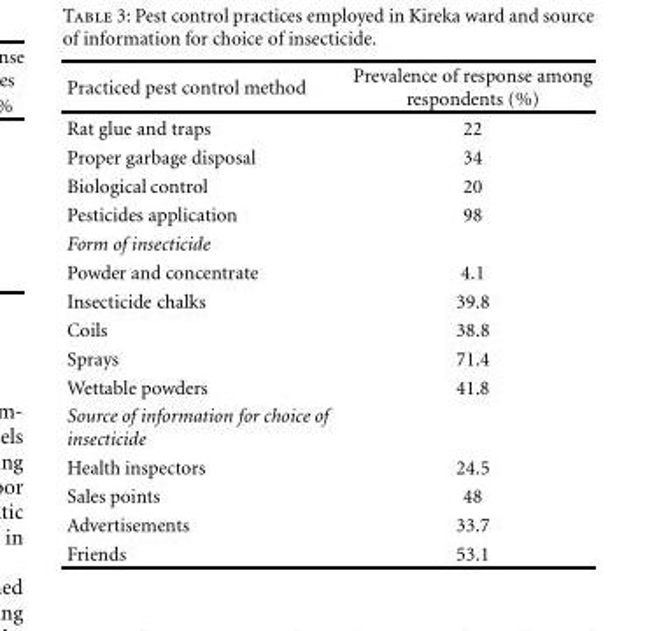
<table><thead><tr><td>Practiced pest control method</td><td>Prevalence of response among respondents (%)</td></tr></thead><tbody><tr><td>Rat glue and traps</td><td>22</td></tr><tr><td>Proper garbage disposal</td><td>34</td></tr><tr><td>Biological control</td><td>20</td></tr><tr><td>Pesticides application</td><td>98</td></tr><tr><td colspan="2">Form of insecticide</td></tr><tr><td>Powder and concentrate</td><td>4.1</td></tr><tr><td>Insecticide chalks</td><td>39.8</td></tr><tr><td>Coils</td><td>38.8</td></tr><tr><td>Sprays</td><td>71.4</td></tr><tr><td>Wettable powders</td><td>41.8</td></tr><tr><td colspan="2">Source of information for choice of insecticide</td></tr><tr><td>Health inspectors</td><td>24.5</td></tr><tr><td>Sales points</td><td>48</td></tr><tr><td>Advertisements</td><td>33.7</td></tr><tr><td>Friends</td><td>53.1</td></tr></tbody></table>